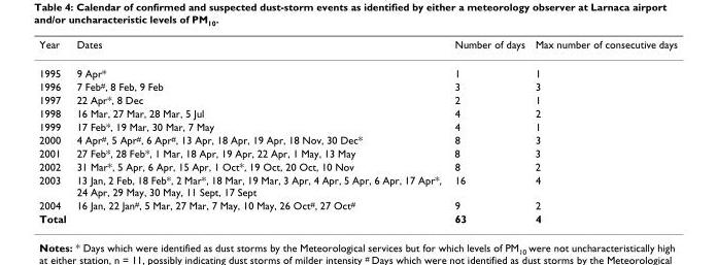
<table><thead><tr><td>Year</td><td>Dates</td><td>Number of days</td><td>Max number of consecutive days</td></tr></thead><tbody><tr><td>1995</td><td>9 Apr*</td><td>1</td><td>1</td></tr><tr><td>1996</td><td>7 Feb<sup>#</sup>, 8 Feb, 9 Feb</td><td>3</td><td>3</td></tr><tr><td>1997</td><td>22 Apr*, 8 Dec</td><td>2</td><td>1</td></tr><tr><td>1998</td><td>16 Mar, 27 Mar, 28 Mar, 5 Jul</td><td>4</td><td>2</td></tr><tr><td>1999</td><td>17 Feb*, 19 Mar, 30 Mar, 7 May</td><td>4</td><td>1</td></tr><tr><td>2000</td><td>4 Apr<sup>#</sup>, 5 Apr<sup>#</sup>, 6 Apr<sup>#</sup>, 13 Apr, 18 Apr, 19 Apr, 18 Nov, 30 Dec*</td><td>8</td><td>3</td></tr><tr><td>2001</td><td>27 Feb*, 28 Feb*, 1 Mar, 18 Apr, 19 Apr, 22 Apr, 1 May, 13 May</td><td>8</td><td>3</td></tr><tr><td>2002</td><td>31 Mar*, 5 Apr, 6 Apr, 15 Apr, 1 Oct*, 19 Oct, 20 Oct, 10 Nov</td><td>8</td><td>2</td></tr><tr><td>2003</td><td>13 Jan, 2 Feb, 18 Feb*, 2 Mar*, 18 Mar, 19 Mar, 3 Apr, 4 Apr, 5 Apr, 6 Apr, 17 Apr*, 24 Apr, 29 May, 30 May, 11 Sept, 17 Sept</td><td>16</td><td>4</td></tr><tr><td>2004</td><td>16 Jan, 22 Jan<sup>#</sup>, 5 Mar, 27 Mar, 7 May, 10 May, 26 Oct<sup>#</sup>, 27 Oct<sup>#</sup></td><td>9</td><td>2</td></tr><tr><td>Total</td><td></td><td>63</td><td>4</td></tr></tbody></table>